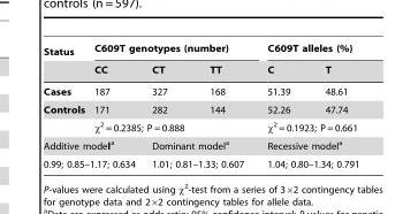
<table><thead><tr><td rowspan="2">Status</td><td colspan="3">C609T genotypes (number)</td><td colspan="2">C609T alleles (%)</td></tr><tr><td>CC</td><td>CT</td><td>TT</td><td>C</td><td>T</td></tr></thead><tbody><tr><td>Cases</td><td>187</td><td>327</td><td>168</td><td>51.39</td><td>48.61</td></tr><tr><td rowspan="2">Controls</td><td>171</td><td>282</td><td>144</td><td>52.26</td><td>47.74</td></tr><tr><td colspan="3">x2 = 0.2385; P = 0.888</td><td colspan="2">x2 = 0.1923; P = 0.661</td></tr><tr><td colspan="2">Additive modela</td><td colspan="2">Dominant model<sup>a</sup></td><td colspan="2">Recessive model<sup>a</sup></td></tr><tr><td colspan="2">0.99; 0.85–1.17; 0.634</td><td colspan="2">1.01; 0.81–1.33; 0.607</td><td colspan="2">1.04; 0.80–1.34; 0.791</td></tr></tbody></table>